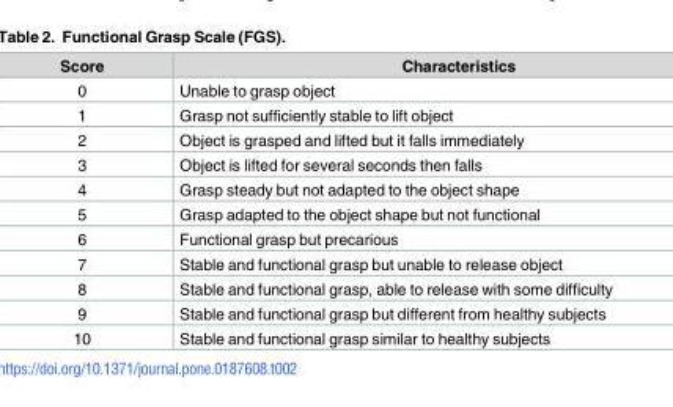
<table><thead><tr><td>Score</td><td>Characteristics</td></tr></thead><tbody><tr><td>0</td><td>Unable to grasp object</td></tr><tr><td>1</td><td>Grasp not sufficiently stable to lift object</td></tr><tr><td>2</td><td>Object is grasped and lifted but it falls immediately</td></tr><tr><td>3</td><td>Object is lifted for several seconds then falls</td></tr><tr><td>4</td><td>Grasp steady but not adapted to the object shape</td></tr><tr><td>5</td><td>Grasp adapted to the object shape but not functional</td></tr><tr><td>6</td><td>Functional grasp but precarious</td></tr><tr><td>7</td><td>Stable and functional grasp but unable to release object</td></tr><tr><td>8</td><td>Stable and functional grasp, able to release with some difficulty</td></tr><tr><td>9</td><td>Stable and functional grasp but different from healthy subjects</td></tr><tr><td>10</td><td>Stable and functional grasp similar to healthy subjects</td></tr></tbody></table>